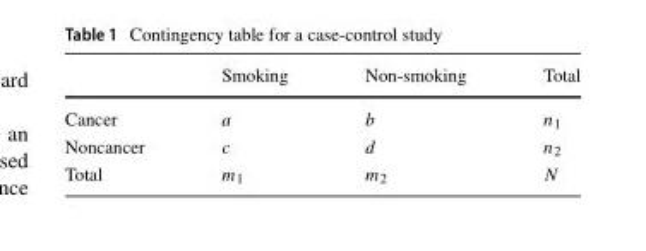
<table><thead><tr><td></td><td>Smoking</td><td>Non-smoking</td><td>Total</td></tr></thead><tbody><tr><td>Cancer</td><td>a</td><td>b</td><td>n<sub>1</sub></td></tr><tr><td>Noncancer</td><td>c</td><td>d</td><td>n<sub>2</sub></td></tr><tr><td>Total</td><td>m<sub>1</sub></td><td>m<sub>2</sub></td><td>N</td></tr></tbody></table>